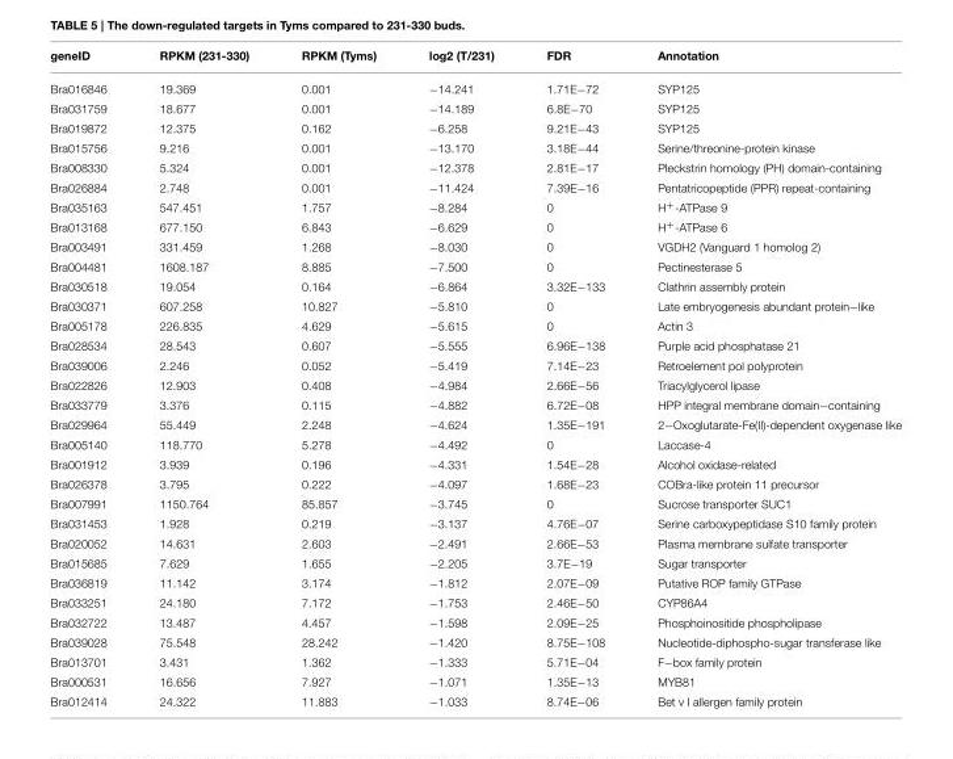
<table><thead><tr><td>geneID</td><td>RPKM (231-330)</td><td>RPKM (Tyms)</td><td>log2 (T/231)</td><td>FDR</td><td>Annotation</td></tr></thead><tbody><tr><td>Bra016846</td><td>19.369</td><td>0.001</td><td>−14.241</td><td>1.71E−72</td><td>SYP125</td></tr><tr><td>Bra031759</td><td>18.677</td><td>0.001</td><td>−14.189</td><td>6.8E−70</td><td>SYP125</td></tr><tr><td>Bra019872</td><td>12.375</td><td>0.162</td><td>−6.258</td><td>9.21E−43</td><td>SYP125</td></tr><tr><td>Bra015756</td><td>9.216</td><td>0.001</td><td>−13.170</td><td>3.18E−44</td><td>Serine/threonine-protein kinase</td></tr><tr><td>Bra008330</td><td>5.324</td><td>0.001</td><td>−12.378</td><td>2.81E−17</td><td>Pleckstrin homology (PH) domain-containing</td></tr><tr><td>Bra026884</td><td>2.748</td><td>0.001</td><td>−11.424</td><td>7.39E−16</td><td>Pentatricopeptide (PPR) repeat-containing</td></tr><tr><td>Bra035163</td><td>547.451</td><td>1.757</td><td>−8.284</td><td>0</td><td>H<sup>+</sup>-ATPase 9</td></tr><tr><td>Bra013168</td><td>677.150</td><td>6.843</td><td>−6.629</td><td>0</td><td>H<sup>+</sup>-ATPase 6</td></tr><tr><td>Bra003491</td><td>331.459</td><td>1.268</td><td>−8.030</td><td>0</td><td>VGDH2 (Vanguard 1 homolog 2)</td></tr><tr><td>Bra004481</td><td>1608.187</td><td>8.885</td><td>−7.500</td><td>0</td><td>Pectinesterase 5</td></tr><tr><td>Bra030518</td><td>19.054</td><td>0.164</td><td>−6.864</td><td>3.32E−133</td><td>Clathrin assembly protein</td></tr><tr><td>Bra030371</td><td>607.258</td><td>10.827</td><td>−5.810</td><td>0</td><td>Late embryogenesis abundant protein−like</td></tr><tr><td>Bra005178</td><td>226.835</td><td>4.629</td><td>−5.615</td><td>0</td><td>Actin 3</td></tr><tr><td>Bra028534</td><td>28.543</td><td>0.607</td><td>−5.555</td><td>6.96E−138</td><td>Purple acid phosphatase 21</td></tr><tr><td>Bra039006</td><td>2.246</td><td>0.052</td><td>−5.419</td><td>7.14E−23</td><td>Retroelement pol polyprotein</td></tr><tr><td>Bra022826</td><td>12.903</td><td>0.408</td><td>−4.984</td><td>2.66E−56</td><td>Triacylglycerol lipase</td></tr><tr><td>Bra033779</td><td>3.376</td><td>0.115</td><td>−4.882</td><td>6.72E−08</td><td>HPP integral membrane domain−containing</td></tr><tr><td>Bra029964</td><td>55.449</td><td>2.248</td><td>−4.624</td><td>1.35E−191</td><td>2−Oxoglutarate-Fe(II)-dependent oxygenase like</td></tr><tr><td>Bra005140</td><td>118.770</td><td>5.278</td><td>−4.492</td><td>0</td><td>Laccase-4</td></tr><tr><td>Bra001912</td><td>3.939</td><td>0.196</td><td>−4.331</td><td>1.54E−28</td><td>Alcohol oxidase-related</td></tr><tr><td>Bra026378</td><td>3.795</td><td>0.222</td><td>−4.097</td><td>1.68E−23</td><td>COBra-like protein 11 precursor</td></tr><tr><td>Bra007991</td><td>1150.764</td><td>85.857</td><td>−3.745</td><td>0</td><td>Sucrose transporter SUC1</td></tr><tr><td>Bra031453</td><td>1.928</td><td>0.219</td><td>−3.137</td><td>4.76E−07</td><td>Serine carboxypeptidase S10 family protein</td></tr><tr><td>Bra020052</td><td>14.631</td><td>2.603</td><td>−2.491</td><td>2.66E−53</td><td>Plasma membrane sulfate transporter</td></tr><tr><td>Bra015685</td><td>7.629</td><td>1.655</td><td>−2.205</td><td>3.7E−19</td><td>Sugar transporter</td></tr><tr><td>Bra036819</td><td>11.142</td><td>3.174</td><td>−1.812</td><td>2.07E−09</td><td>Putative ROP family GTPase</td></tr><tr><td>Bra033251</td><td>24.180</td><td>7.172</td><td>−1.753</td><td>2.46E−50</td><td>CYP86A4</td></tr><tr><td>Bra032722</td><td>13.487</td><td>4.457</td><td>−1.598</td><td>2.09E−25</td><td>Phosphoinositide phospholipase</td></tr><tr><td>Bra039028</td><td>75.548</td><td>28.242</td><td>−1.420</td><td>8.75E−108</td><td>Nucleotide-diphospho-sugar transferase like</td></tr><tr><td>Bra013701</td><td>3.431</td><td>1.362</td><td>−1.333</td><td>5.71E−04</td><td>F−box family protein</td></tr><tr><td>Bra000531</td><td>16.656</td><td>7.927</td><td>−1.071</td><td>1.35E−13</td><td>MYB81</td></tr><tr><td>Bra012414</td><td>24.322</td><td>11.883</td><td>−1.033</td><td>8.74E−06</td><td>Bet v I allergen family protein</td></tr></tbody></table>